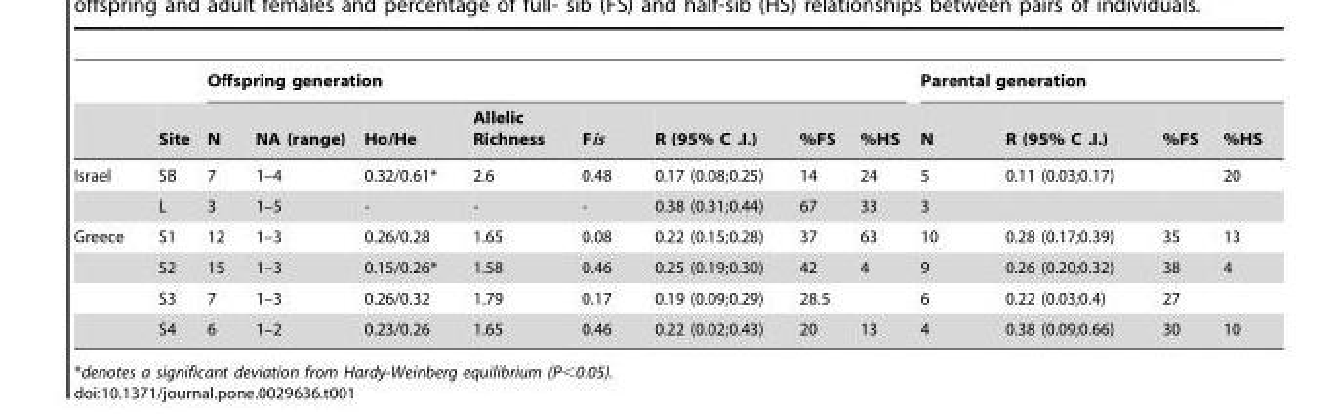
<table><thead><tr><td rowspan="2"></td><td rowspan="2">Site</td><td colspan="8">Offspring generation</td><td colspan="4">Parental generation</td></tr><tr><td>N</td><td>NA (range)</td><td>Ho/He</td><td>Allelic Richness</td><td>Fis</td><td>R (95% C .I.)</td><td>%FS</td><td>%HS</td><td>N</td><td>R (95% C .I.)</td><td>%FS</td><td>%HS</td></tr></thead><tbody><tr><td rowspan="2">Israel</td><td>SB</td><td>7</td><td>1–4</td><td>0.32/0.61*</td><td>2.6</td><td>0.48</td><td>0.17 (0.08;0.25)</td><td>14</td><td>24</td><td>5</td><td>0.11 (0.03;0.17)</td><td></td><td>20</td></tr><tr><td>L</td><td>3</td><td>1–5</td><td>-</td><td>-</td><td>-</td><td>0.38 (0.31;0.44)</td><td>67</td><td>33</td><td>3</td><td></td><td></td><td></td></tr><tr><td rowspan="4">Greece</td><td>S1</td><td>12</td><td>1–3</td><td>0.26/0.28</td><td>1.65</td><td>0.08</td><td>0.22 (0.15;0.28)</td><td>37</td><td>63</td><td>10</td><td>0.28 (0.17;0.39)</td><td>35</td><td>13</td></tr><tr><td>S2</td><td>15</td><td>1–3</td><td>0.15/0.26*</td><td>1.58</td><td>0.46</td><td>0.25 (0.19;0.30)</td><td>42</td><td>4</td><td>9</td><td>0.26 (0.20;0.32)</td><td>38</td><td>4</td></tr><tr><td>S3</td><td>7</td><td>1–3</td><td>0.26/0.32</td><td>1.79</td><td>0.17</td><td>0.19 (0.09;0.29)</td><td>28.5</td><td></td><td>6</td><td>0.22 (0.03;0.4)</td><td>27</td><td></td></tr><tr><td>S4</td><td>6</td><td>1–2</td><td>0.23/0.26</td><td>1.65</td><td>0.46</td><td>0.22 (0.02;0.43)</td><td>20</td><td>13</td><td>4</td><td>0.38 (0.09;0.66)</td><td>30</td><td>10</td></tr></tbody></table>